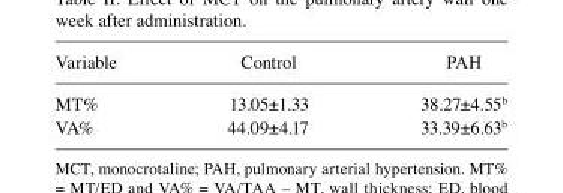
<table><thead><tr><td>Variable</td><td>Control</td><td>PAH</td></tr></thead><tbody><tr><td>MT%</td><td>13.05±1.33</td><td>38.27±4.55<sup>b</sup></td></tr><tr><td>VA%</td><td>44.09±4.17</td><td>33.39±6.63<sup>b</sup></td></tr></tbody></table>